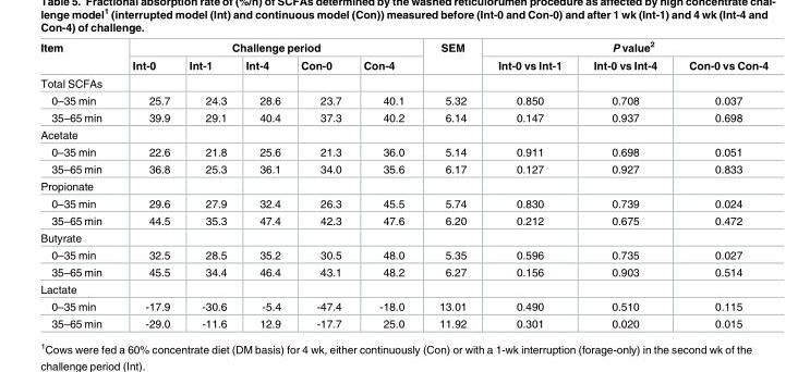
<table><thead><tr><td rowspan="2">Item</td><td colspan="5">Challenge period</td><td rowspan="2">SEM</td><td colspan="3">P value<sup>2</sup></td></tr><tr><td>Int-0</td><td>Int-1</td><td>Int-4</td><td>Con-0</td><td>Con-4</td><td>Int-0 vs Int-1</td><td>Int-0 vs Int-4</td><td>Con-0 vs Con-4</td></tr></thead><tbody><tr><td colspan="10">Total SCFAs</td></tr><tr><td>0–35 min</td><td>25.7</td><td>24.3</td><td>28.6</td><td>23.7</td><td>40.1</td><td>5.32</td><td>0.850</td><td>0.708</td><td>0.037</td></tr><tr><td>35–65 min</td><td>39.9</td><td>29.1</td><td>40.4</td><td>37.3</td><td>40.2</td><td>6.14</td><td>0.147</td><td>0.937</td><td>0.698</td></tr><tr><td colspan="10">Acetate</td></tr><tr><td>0–35 min</td><td>22.6</td><td>21.8</td><td>25.6</td><td>21.3</td><td>36.0</td><td>5.14</td><td>0.911</td><td>0.698</td><td>0.051</td></tr><tr><td>35–65 min</td><td>36.8</td><td>25.3</td><td>36.1</td><td>34.0</td><td>35.6</td><td>6.17</td><td>0.127</td><td>0.927</td><td>0.833</td></tr><tr><td colspan="10">Propionate</td></tr><tr><td>0–35 min</td><td>29.6</td><td>27.9</td><td>32.4</td><td>26.3</td><td>45.5</td><td>5.74</td><td>0.830</td><td>0.739</td><td>0.024</td></tr><tr><td>35–65 min</td><td>44.5</td><td>35.3</td><td>47.4</td><td>42.3</td><td>47.6</td><td>6.20</td><td>0.212</td><td>0.675</td><td>0.472</td></tr><tr><td colspan="10">Butyrate</td></tr><tr><td>0–35 min</td><td>32.5</td><td>28.5</td><td>35.2</td><td>30.5</td><td>48.0</td><td>5.35</td><td>0.596</td><td>0.735</td><td>0.027</td></tr><tr><td>35–65 min</td><td>45.5</td><td>34.4</td><td>46.4</td><td>43.1</td><td>48.2</td><td>6.27</td><td>0.156</td><td>0.903</td><td>0.514</td></tr><tr><td colspan="10">Lactate</td></tr><tr><td>0–35 min</td><td>-17.9</td><td>-30.6</td><td>-5.4</td><td>-47.4</td><td>-18.0</td><td>13.01</td><td>0.490</td><td>0.510</td><td>0.115</td></tr><tr><td>35–65 min</td><td>-29.0</td><td>-11.6</td><td>12.9</td><td>-17.7</td><td>25.0</td><td>11.92</td><td>0.301</td><td>0.020</td><td>0.015</td></tr></tbody></table>